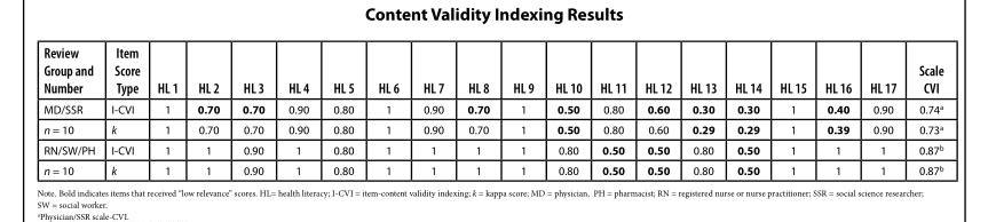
<table><thead><tr><td>Review Group and Number</td><td>Item Score Type</td><td>HL 1</td><td>HL 2</td><td>HL 3</td><td>HL 4</td><td>HL 5</td><td>HL 6</td><td>HL 7</td><td>HL 8</td><td>HL 9</td><td>HL 10</td><td>HL 11</td><td>HL 12</td><td>HL 13</td><td>HL 14</td><td>HL 15</td><td>HL 16</td><td>HL 17</td><td>Scale CVI</td></tr></thead><tbody><tr><td>MD/SSR</td><td>I-CVI</td><td>1</td><td>0.70</td><td>0.70</td><td>0.90</td><td>0.80</td><td>1</td><td>0.90</td><td>0.70</td><td>1</td><td>0.50</td><td>0.80</td><td>0.60</td><td>0.30</td><td>0.30</td><td>1</td><td>0.40</td><td>0.90</td><td>0.74<sup>a</sup></td></tr><tr><td>n = 10</td><td>k</td><td>1</td><td>0.70</td><td>0.70</td><td>0.90</td><td>0.80</td><td>1</td><td>0.90</td><td>0.70</td><td>1</td><td>0.50</td><td>0.80</td><td>0.60</td><td>0.29</td><td>0.29</td><td>1</td><td>0.39</td><td>0.90</td><td>0.73<sup>a</sup></td></tr><tr><td>RN/SW/PH</td><td>I-CVI</td><td>1</td><td>1</td><td>0.90</td><td>1</td><td>0.80</td><td>1</td><td>1</td><td>1</td><td>1</td><td>0.80</td><td>0.50</td><td>0.50</td><td>0.80</td><td>0.50</td><td>1</td><td>1</td><td>1</td><td>0.87<sup>b</sup></td></tr><tr><td>n = 10</td><td>k</td><td>1</td><td>1</td><td>0.90</td><td>1</td><td>0.80</td><td>1</td><td>1</td><td>1</td><td>1</td><td>0.80</td><td>0.50</td><td>0.50</td><td>0.80</td><td>0.50</td><td>1</td><td>1</td><td>1</td><td>0.87<sup>b</sup></td></tr></tbody></table>